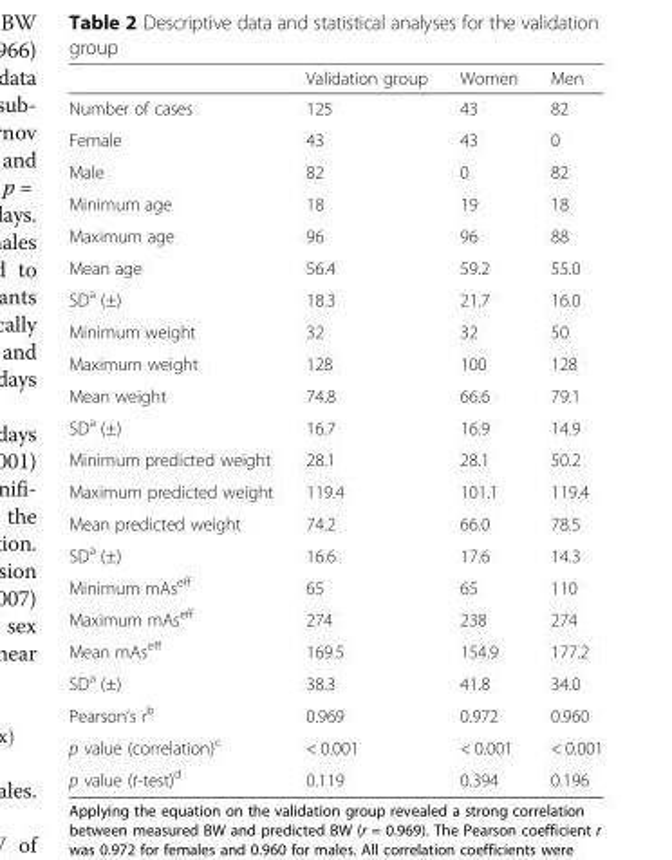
<table><thead><tr><td></td><td>Validation group</td><td>Women</td><td>Men</td></tr></thead><tbody><tr><td>Number of cases</td><td>125</td><td>43</td><td>82</td></tr><tr><td>Female</td><td>43</td><td>43</td><td>0</td></tr><tr><td>Male</td><td>82</td><td>0</td><td>82</td></tr><tr><td>Minimum age</td><td>18</td><td>19</td><td>18</td></tr><tr><td>Maximum age</td><td>96</td><td>96</td><td>88</td></tr><tr><td>Mean age</td><td>56.4</td><td>59.2</td><td>55.0</td></tr><tr><td>SD<sup>a</sup> (±)</td><td>18.3</td><td>21.7</td><td>16.0</td></tr><tr><td>Minimum weight</td><td>32</td><td>32</td><td>50</td></tr><tr><td>Maximum weight</td><td>128</td><td>100</td><td>128</td></tr><tr><td>Mean weight</td><td>74.8</td><td>66.6</td><td>79.1</td></tr><tr><td>SD<sup>a</sup> (±)</td><td>16.7</td><td>16.9</td><td>14.9</td></tr><tr><td>Minimum predicted weight</td><td>28.1</td><td>28.1</td><td>50.2</td></tr><tr><td>Maximum predicted weight</td><td>119.4</td><td>101.1</td><td>119.4</td></tr><tr><td>Mean predicted weight</td><td>74.2</td><td>66.0</td><td>78.5</td></tr><tr><td>SD<sup>a</sup> (±)</td><td>16.6</td><td>17.6</td><td>14.3</td></tr><tr><td>Minimum mAs<sup>eff</sup></td><td>65</td><td>65</td><td>110</td></tr><tr><td>Maximum mAs<sup>eff</sup></td><td>274</td><td>238</td><td>274</td></tr><tr><td>Mean mAs<sup>eff</sup></td><td>169.5</td><td>154.9</td><td>177.2</td></tr><tr><td>SD<sup>a</sup> (±)</td><td>38.3</td><td>41.8</td><td>34.0</td></tr><tr><td>Pearson’s r<sup>b</sup></td><td>0.969</td><td>0.972</td><td>0.960</td></tr><tr><td>p value (correlation)<sup>c</sup></td><td>&lt; 0.001</td><td>&lt; 0.001</td><td>&lt; 0.001</td></tr><tr><td>p value (t-test)<sup>d</sup></td><td>0.119</td><td>0.394</td><td>0.196</td></tr></tbody></table>